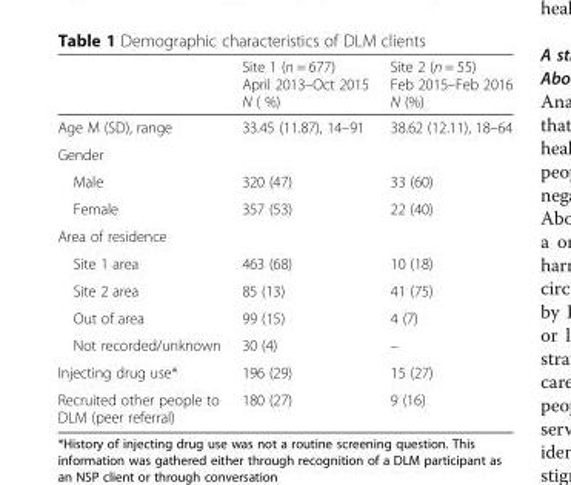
<table><thead><tr><td></td><td>Site 1 (n = 677) April 2013–Oct 2015 N ( %)</td><td>Site 2 (n = 55) Feb 2015–Feb 2016 N (%)</td></tr></thead><tbody><tr><td>Age M (SD), range</td><td>33.45 (11.87), 14–91</td><td>38.62 (12.11), 18–64</td></tr><tr><td colspan="3">Gender</td></tr><tr><td>Male</td><td>320 (47)</td><td>33 (60)</td></tr><tr><td>Female</td><td>357 (53)</td><td>22 (40)</td></tr><tr><td colspan="3">Area of residence</td></tr><tr><td>Site 1 area</td><td>463 (68)</td><td>10 (18)</td></tr><tr><td>Site 2 area</td><td>85 (13)</td><td>41 (75)</td></tr><tr><td>Out of area</td><td>99 (15)</td><td>4 (7)</td></tr><tr><td>Not recorded/unknown</td><td>30 (4)</td><td>–</td></tr><tr><td>Injecting drug use*</td><td>196 (29)</td><td>15 (27)</td></tr><tr><td>Recruited other people to DLM (peer referral)</td><td>180 (27)</td><td>9 (16)</td></tr></tbody></table>